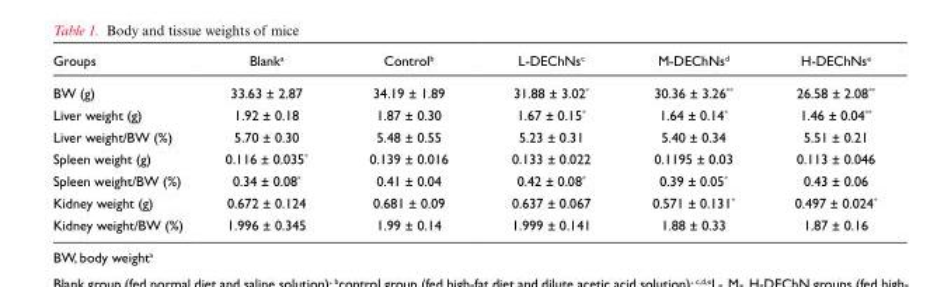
<table><thead><tr><td>Groups</td><td>Blank<sup>a</sup></td><td>Control<sup>b</sup></td><td>L-DEChNs<sup>c</sup></td><td>M-DEChNs<sup>d</sup></td><td>H-DEChNs<sup>e</sup></td></tr></thead><tbody><tr><td>BW (g)</td><td>33.63 ± 2.87</td><td>34.19 ± 1.89</td><td>31.88 ± 3.02*</td><td>30.36 ± 3.26**</td><td>26.58 ± 2.08**</td></tr><tr><td>Liver weight (g)</td><td>1.92 ± 0.18</td><td>1.87 ± 0.30</td><td>1.67 ± 0.15*</td><td>1.64 ± 0.14*</td><td>1.46 ± 0.04**</td></tr><tr><td>Liver weight/BW (%)</td><td>5.70 ± 0.30</td><td>5.48 ± 0.55</td><td>5.23 ± 0.31</td><td>5.40 ± 0.34</td><td>5.51 ± 0.21</td></tr><tr><td>Spleen weight (g)</td><td>0.116 ± 0.035*</td><td>0.139 ± 0.016</td><td>0.133 ± 0.022</td><td>0.1195 ± 0.03</td><td>0.113 ± 0.046</td></tr><tr><td>Spleen weight/BW (%)</td><td>0.34 ± 0.08*</td><td>0.41 ± 0.04</td><td>0.42 ± 0.08*</td><td>0.39 ± 0.05*</td><td>0.43 ± 0.06</td></tr><tr><td>Kidney weight (g)</td><td>0.672 ± 0.124</td><td>0.681 ± 0.09</td><td>0.637 ± 0.067</td><td>0.571 ± 0.131*</td><td>0.497 ± 0.024*</td></tr><tr><td>Kidney weight/BW (%)</td><td>1.996 ± 0.345</td><td>1.99 ± 0.14</td><td>1.999 ± 0.141</td><td>1.88 ± 0.33</td><td>1.87 ± 0.16</td></tr></tbody></table>